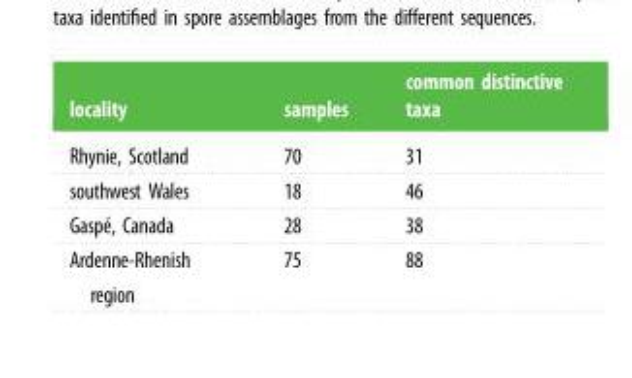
<table><thead><tr><td>locality</td><td>samples</td><td>common distinctive taxa</td></tr></thead><tbody><tr><td>Rhynie, Scotland</td><td>70</td><td>31</td></tr><tr><td>southwest Wales</td><td>18</td><td>46</td></tr><tr><td>Gaspe´, Canada</td><td>28</td><td>38</td></tr><tr><td>Ardenne-Rhenish region</td><td>75</td><td>88</td></tr></tbody></table>